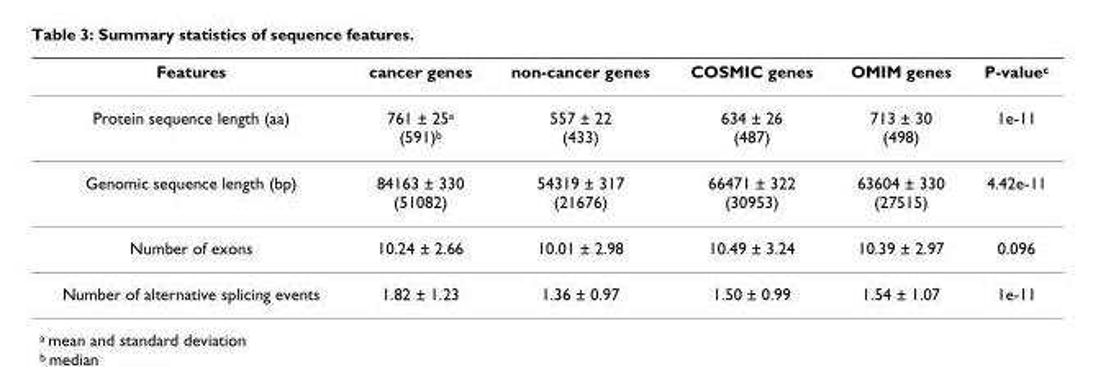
<table><thead><tr><td>Features</td><td>cancer genes</td><td>non-cancer genes</td><td>COSMIC genes</td><td>OMIM genes</td><td>P-value<sup>c</sup></td></tr></thead><tbody><tr><td>Protein sequence length (aa)</td><td>761 ± 25<sup>a</sup> (591)<sup>b</sup></td><td>557 ± 22 (433)</td><td>634 ± 26 (487)</td><td>713 ± 30 (498)</td><td>1e-11</td></tr><tr><td>Genomic sequence length (bp)</td><td>84163 ± 330 (51082)</td><td>54319 ± 317 (21676)</td><td>66471 ± 322 (30953)</td><td>63604 ± 330 (27515)</td><td>4.42e-11</td></tr><tr><td>Number of exons</td><td>10.24 ± 2.66</td><td>10.01 ± 2.98</td><td>10.49 ± 3.24</td><td>10.39 ± 2.97</td><td>0.096</td></tr><tr><td>Number of alternative splicing events</td><td>1.82 ± 1.23</td><td>1.36 ± 0.97</td><td>1.50 ± 0.99</td><td>1.54 ± 1.07</td><td>1e-11</td></tr></tbody></table>